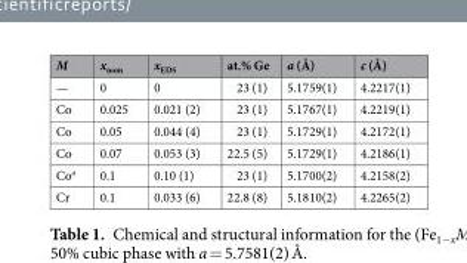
<table><thead><tr><td>M</td><td>x<sub>nom</sub></td><td>x<sub>EDS</sub></td><td>at.% Ge</td><td>a (Å)</td><td>c (Å)</td></tr></thead><tbody><tr><td>—</td><td>0</td><td>0</td><td>23 (1)</td><td>5.1759(1)</td><td>4.2217(1)</td></tr><tr><td>Co</td><td>0.025</td><td>0.021 (2)</td><td>23 (1)</td><td>5.1767(1)</td><td>4.2219(1)</td></tr><tr><td>Co</td><td>0.05</td><td>0.044 (4)</td><td>23 (1)</td><td>5.1729(1)</td><td>4.2172(1)</td></tr><tr><td>Co</td><td>0.07</td><td>0.053 (3)</td><td>22.5 (5)</td><td>5.1729(1)</td><td>4.2186(1)</td></tr><tr><td>Co<sup>a</sup></td><td>0.1</td><td>0.10 (1)</td><td>23 (1)</td><td>5.1700(2)</td><td>4.2158(2)</td></tr><tr><td>Cr</td><td>0.1</td><td>0.033 (6)</td><td>22.8 (8)</td><td>5.1810(2)</td><td>4.2265(2)</td></tr></tbody></table>